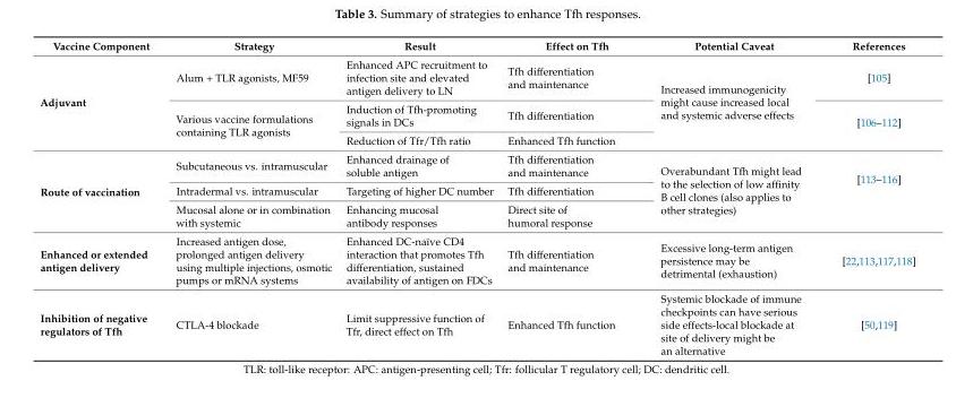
<table><thead><tr><td>Vaccine Component</td><td>Strategy</td><td>Result</td><td>Effect on Tfh</td><td>Potential Caveat</td><td>References</td></tr></thead><tbody><tr><td rowspan="3">Adjuvant</td><td>Alum + TLR agonists, MF59</td><td>Enhanced APC recruitment to infection site and elevated antigen delivery to LN</td><td>Tfh differentiation and maintenance</td><td rowspan="3">Increased immunogenicity might cause increased local and systemic adverse effects</td><td>[105]</td></tr><tr><td rowspan="2">Various vaccine formulations containing TLR agonists</td><td>Induction of Tfh-promoting signals in DCs</td><td>Tfh differentiation</td><td rowspan="2">[106–112]</td></tr><tr><td>Reduction of Tfr/Tfh ratio</td><td>Enhanced Tfh function</td></tr><tr><td rowspan="3">Route of vaccination</td><td>Subcutaneous vs. intramuscular</td><td>Enhanced drainage of soluble antigen</td><td>Tfh differentiation and maintenance</td><td rowspan="3">Overabundant Tfh might lead to the selection of low affinity B cell clones (also applies to other strategies)</td><td rowspan="3">[113–116]</td></tr><tr><td>Intradermal vs. intramuscular</td><td>Targeting of higher DC number</td><td>Tfh differentiation</td></tr><tr><td>Mucosal alone or in combination with systemic</td><td>Enhancing mucosal antibody responses</td><td>Direct site of humoral response</td></tr><tr><td>Enhanced or extended antigen delivery</td><td>Increased antigen dose, prolonged antigen delivery using multiple injections, osmotic pumps or mRNA systems</td><td>Enhanced DC-naïve CD4 interaction that promotes Tfh differentiation, sustained availability of antigen on FDCs</td><td>Tfh differentiation and maintenance</td><td>Excessive long-term antigen persistence may be detrimental (exhaustion)</td><td>[22,113,117,118]</td></tr><tr><td>Inhibition of negative regulators of Tfh</td><td>CTLA-4 blockade</td><td>Limit suppressive function of Tfr, direct effect on Tfh</td><td>Enhanced Tfh function</td><td>Systemic blockade of immune checkpoints can have serious side effects-local blockade at site of delivery might be an alternative</td><td>[50,119]</td></tr></tbody></table>